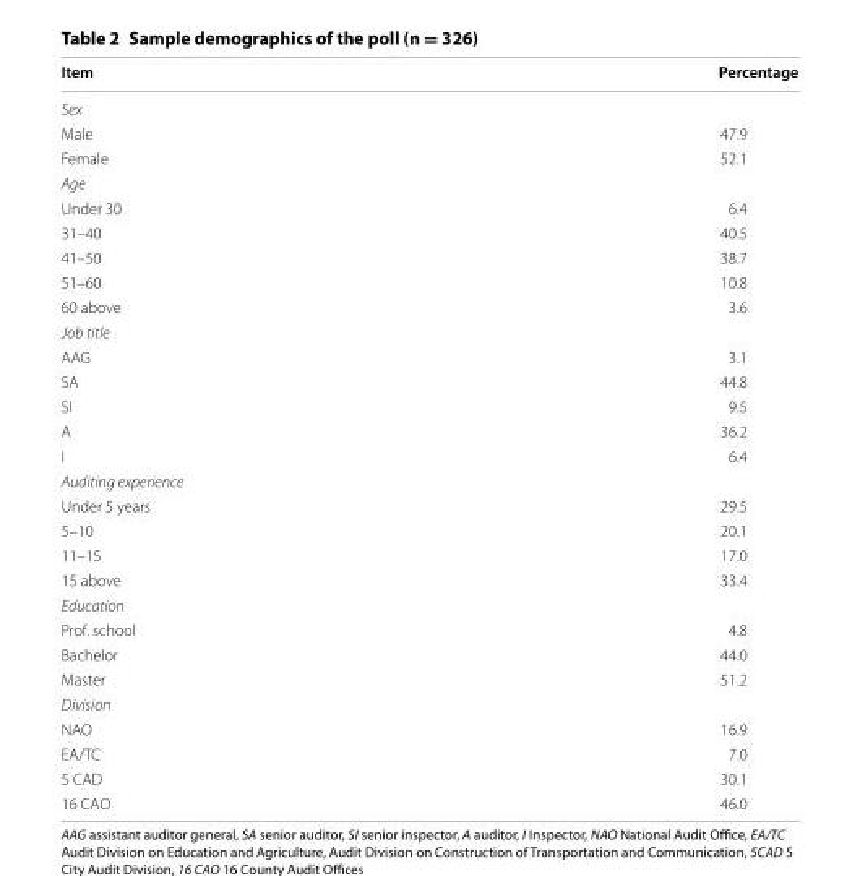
<table><thead><tr><td>Item</td><td>Percentage</td></tr></thead><tbody><tr><td colspan="2">Sex</td></tr><tr><td>Male</td><td>47.9</td></tr><tr><td>Female</td><td>52.1</td></tr><tr><td colspan="2">Age</td></tr><tr><td>Under 30</td><td>6.4</td></tr><tr><td>31–40</td><td>40.5</td></tr><tr><td>41–50</td><td>38.7</td></tr><tr><td>51–60</td><td>10.8</td></tr><tr><td>60 above</td><td>3.6</td></tr><tr><td colspan="2">Job title</td></tr><tr><td>AAG</td><td>3.1</td></tr><tr><td>SA</td><td>44.8</td></tr><tr><td>SI</td><td>9.5</td></tr><tr><td>A</td><td>36.2</td></tr><tr><td>I</td><td>6.4</td></tr><tr><td colspan="2">Auditing experience</td></tr><tr><td>Under 5 years</td><td>29.5</td></tr><tr><td>5–10</td><td>20.1</td></tr><tr><td>11–15</td><td>17.0</td></tr><tr><td>15 above</td><td>33.4</td></tr><tr><td colspan="2">Education</td></tr><tr><td>Prof. school</td><td>4.8</td></tr><tr><td>Bachelor</td><td>44.0</td></tr><tr><td>Master</td><td>51.2</td></tr><tr><td colspan="2">Division</td></tr><tr><td>NAO</td><td>16.9</td></tr><tr><td>EA/TC</td><td>7.0</td></tr><tr><td>5 CAD</td><td>30.1</td></tr><tr><td>16 CAO</td><td>46.0</td></tr></tbody></table>